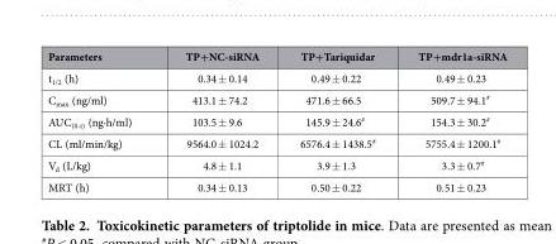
<table><thead><tr><td>Parameters</td><td>TP+NC-siRNA</td><td>TP+Tariquidar</td><td>TP+mdr1a-siRNA</td></tr></thead><tbody><tr><td>t<sub>1/2</sub> (h)</td><td>0.34 ± 0.14</td><td>0.49 ± 0.22</td><td>0.49 ± 0.23</td></tr><tr><td>C<sub>max</sub> (ng/ml)</td><td>413.1 ± 74.2</td><td>471.6 ± 66.5</td><td>509.7 ± 94.1<sup>#</sup></td></tr><tr><td>AUC<sub>(0-t)</sub> (ng·h/ml)</td><td>103.5 ± 9.6</td><td>145.9 ± 24.6<sup>#</sup></td><td>154.3 ± 30.2<sup>#</sup></td></tr><tr><td>CL (ml/min/kg)</td><td>9564.0 ± 1024.2</td><td>6576.4 ± 1438.5<sup>#</sup></td><td>5755.4 ± 1200.1<sup>#</sup></td></tr><tr><td>V<sub>d</sub> (L/kg)</td><td>4.8 ± 1.1</td><td>3.9 ± 1.3</td><td>3.3 ± 0.7<sup>#</sup></td></tr><tr><td>MRT (h)</td><td>0.34 ± 0.13</td><td>0.50 ± 0.22</td><td>0.51 ± 0.23</td></tr></tbody></table>